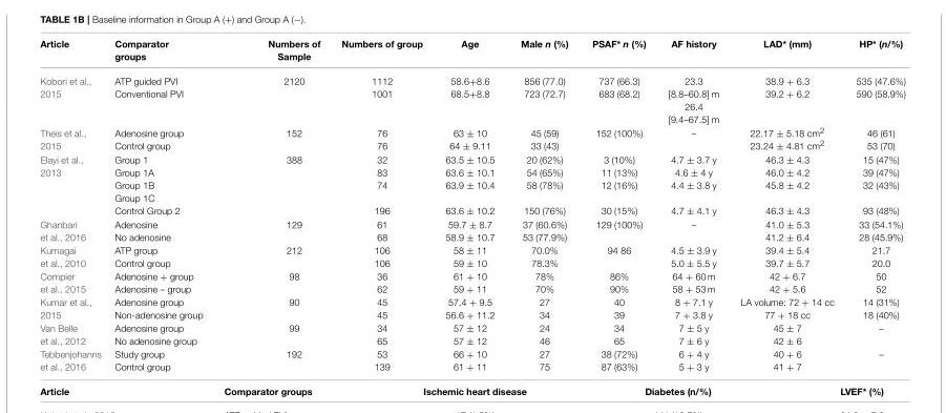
<table><thead><tr><td>Article</td><td>Comparator groups</td><td>Numbers of Sample</td><td>Numbers of group</td><td>Age</td><td>Male n (%)</td><td>PSAF* n (%)</td><td>AF history</td><td>LAD* (mm)</td><td>HP* (n/%)</td></tr></thead><tbody><tr><td>Kobori et al., 2015</td><td>ATP guided PVI Conventional PVI</td><td>2120</td><td>1112 1001</td><td>58.6+8.6 68.5+8.8</td><td>856 (77.0) 723 (72.7)</td><td>737 (66.3) 683 (68.2)</td><td>23.3 [8.8–60.8] m 26.4 [9.4–67.5] m</td><td>38.9 + 6.3 39.2 + 6.2</td><td>535 (47.6%) 590 (58.9%)</td></tr><tr><td>Theis et al., 2015</td><td>Adenosine group Control group</td><td>152</td><td>76 76</td><td>63 ± 10 64 ± 9.11</td><td>45 (59) 33 (43)</td><td>152 (100%)</td><td>–</td><td>22.17 ± 5.18 cm<sup>2</sup> 23.24 ± 4.81 cm<sup>2</sup></td><td>46 (61) 53 (70)</td></tr><tr><td>Elayi et al., 2013</td><td>Group 1 Group 1A Group 1B Group 1C Control Group 2</td><td>388</td><td>32 83 74 196</td><td>63.5 ± 10.5 63.6 ± 10.1 63.9 ± 10.4 63.6 ± 10.2</td><td>20 (62%) 54 (65%) 58 (78%) 150 (76%)</td><td>3 (10%) 11 (13%) 12 (16%) 30 (15%)</td><td>4.7 ± 3.7 y 4.6 ± 4 y 4.4 ± 3.8 y 4.7 ± 4.1 y</td><td>46.3 ± 4.3 46.0 ± 4.2 45.8 ± 4.2 46.3 ± 4.3</td><td>15 (47%) 39 (47%) 32 (43%) 93 (48%)</td></tr><tr><td>Ghanbari et al., 2016</td><td>Adenosine No adenosine</td><td>129</td><td>61 68</td><td>59.7 ± 8.7 58.9 ± 10.7</td><td>37 (60.6%) 53 (77.9%)</td><td>129 (100%)</td><td>–</td><td>41.0 ± 5.3 41.2 ± 6.4</td><td>33 (54.1%) 28 (45.9%)</td></tr><tr><td>Kumagai et al., 2010</td><td>ATP group Control group</td><td>212</td><td>106 106</td><td>58 ± 11 59 ± 10</td><td>70.0% 78.3%</td><td>94 86</td><td>4.5 ± 3.9 y 5.0 ± 5.5 y</td><td>39.4 ± 5.4 39.7 ± 5.7</td><td>21.7 20.0</td></tr><tr><td>Compier et al., 2015</td><td>Adenosine + group Adenosine – group</td><td>98</td><td>36 62</td><td>61 + 10 59 + 11</td><td>78% 70%</td><td>86% 90%</td><td>64 + 60 m 58 + 53 m</td><td>42 + 6.7 42 + 5.6</td><td>50 52</td></tr><tr><td>Kumar et al., 2015</td><td>Adenosine group Non-adenosine group</td><td>90</td><td>45 45</td><td>57.4 + 9.5 56.6 + 11.2</td><td>27 34</td><td>40 39</td><td>8 + 7.1 y 7 + 3.8 y</td><td>LA volume: 72 + 14 cc 77 + 18 cc</td><td>14 (31%) 18 (40%)</td></tr><tr><td>Van Belle et al., 2012</td><td>Adenosine group No adenosine group</td><td>99</td><td>34 65</td><td>57 ± 12 57 ± 12</td><td>24 46</td><td>34 65</td><td>7 ± 5 y 7 ± 6 y</td><td>45 ± 7 42 ± 6</td><td>–</td></tr><tr><td>Tebbenjohanns et al., 2016</td><td>Study group Control group</td><td>192</td><td>53 139</td><td>66 + 10 61 + 11</td><td>27 75</td><td>38 (72%) 87 (63%)</td><td>6 + 4 y 5 + 3 y</td><td>40 + 6 41 + 7</td><td>–</td></tr></tbody></table>